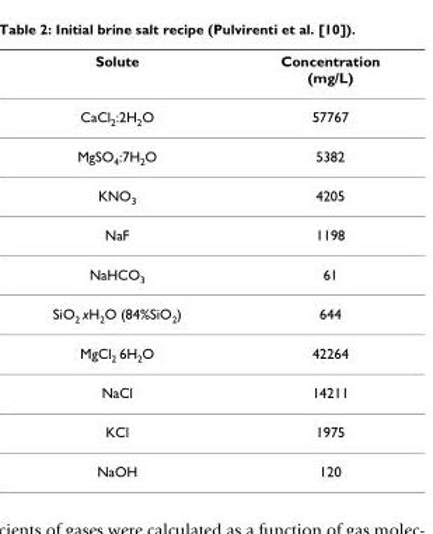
<table><thead><tr><td>Solute</td><td>Concentration (mg/L)</td></tr></thead><tbody><tr><td>CaCl<sub>2</sub>:2H<sub>2</sub>O</td><td>57767</td></tr><tr><td>MgSO<sub>4</sub>:7H<sub>2</sub>O</td><td>5382</td></tr><tr><td>KNO<sub>3</sub></td><td>4205</td></tr><tr><td>NaF</td><td>1198</td></tr><tr><td>NaHCO<sub>3</sub></td><td>61</td></tr><tr><td>SiO<sub>2</sub> xH<sub>2</sub>O (84%SiO<sub>2</sub>)</td><td>644</td></tr><tr><td>MgCl<sub>2</sub> 6H<sub>2</sub>O</td><td>42264</td></tr><tr><td>NaCl</td><td>14211</td></tr><tr><td>KCl</td><td>1975</td></tr><tr><td>NaOH</td><td>120</td></tr></tbody></table>